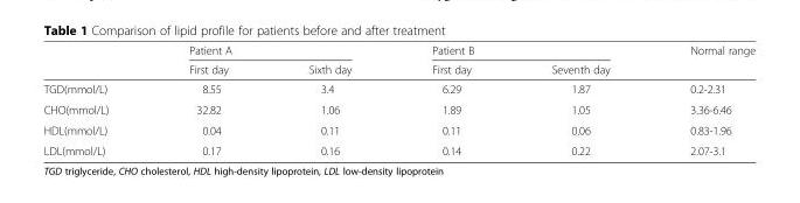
<table><thead><tr><td rowspan="2"></td><td colspan="2">Patient A</td><td colspan="2">Patient B</td><td rowspan="2">Normal range</td></tr><tr><td>First day</td><td>Sixth day</td><td>First day</td><td>Seventh day</td></tr></thead><tbody><tr><td>TGD(mmol/L)</td><td>8.55</td><td>3.4</td><td>6.29</td><td>1.87</td><td>0.2-2.31</td></tr><tr><td>CHO(mmol/L)</td><td>32.82</td><td>1.06</td><td>1.89</td><td>1.05</td><td>3.36-6.46</td></tr><tr><td>HDL(mmol/L)</td><td>0.04</td><td>0.11</td><td>0.11</td><td>0.06</td><td>0.83-1.96</td></tr><tr><td>LDL(mmol/L)</td><td>0.17</td><td>0.16</td><td>0.14</td><td>0.22</td><td>2.07-3.1</td></tr></tbody></table>